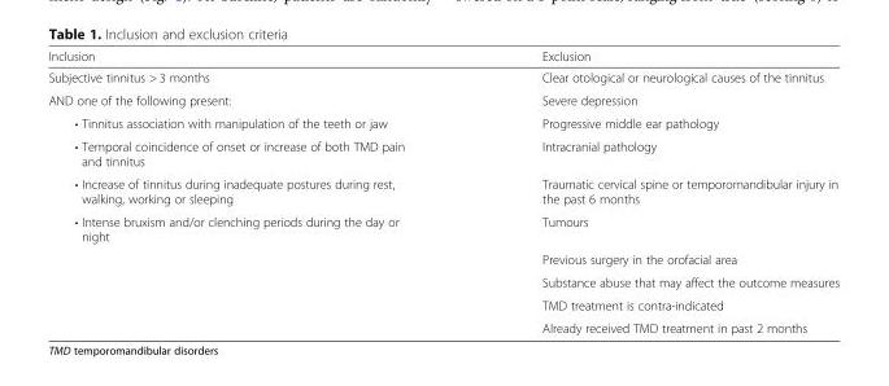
<table><thead><tr><td>Inclusion</td><td>Exclusion</td></tr></thead><tbody><tr><td>Subjective tinnitus &gt; 3 months</td><td>Clear otological or neurological causes of the tinnitus</td></tr><tr><td>AND one of the following present:</td><td>Severe depression</td></tr><tr><td>• Tinnitus association with manipulation of the teeth or jaw</td><td>Progressive middle ear pathology</td></tr><tr><td>• Temporal coincidence of onset or increase of both TMD pain and tinnitus</td><td>Intracranial pathology</td></tr><tr><td>• Increase of tinnitus during inadequate postures during rest, walking, working or sleeping</td><td>Traumatic cervical spine or temporomandibular injury in the past 6 months</td></tr><tr><td rowspan="5">• Intense bruxism and/or clenching periods during the day or night</td><td>Tumours</td></tr><tr><td>Previous surgery in the orofacial area</td></tr><tr><td>Substance abuse that may affect the outcome measures</td></tr><tr><td>TMD treatment is contra-indicated</td></tr><tr><td>Already received TMD treatment in past 2 months</td></tr></tbody></table>